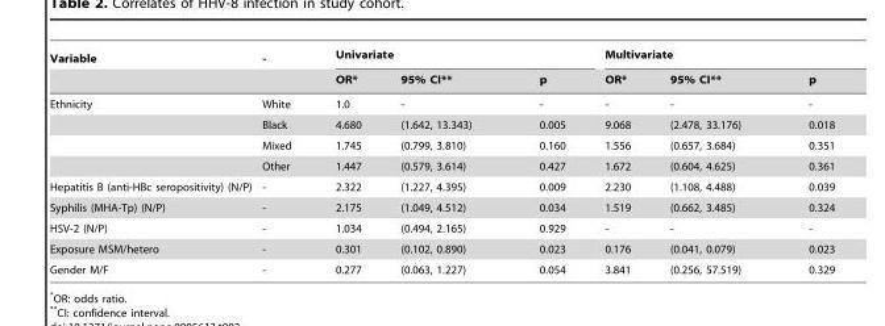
<table><thead><tr><td rowspan="2">Variable</td><td rowspan="2">-</td><td colspan="3">Univariate</td><td colspan="3">Multivariate</td></tr><tr><td>OR*</td><td>95% CI**</td><td>p</td><td>OR*</td><td>95% CI**</td><td>p</td></tr></thead><tbody><tr><td rowspan="4">Ethnicity</td><td>White</td><td>1.0</td><td>-</td><td>-</td><td>-</td><td>-</td><td>-</td></tr><tr><td>Black</td><td>4.680</td><td>(1.642, 13.343)</td><td>0.005</td><td>9.068</td><td>(2.478, 33.176)</td><td>0.018</td></tr><tr><td>Mixed</td><td>1.745</td><td>(0.799, 3.810)</td><td>0.160</td><td>1.556</td><td>(0.657, 3.684)</td><td>0.351</td></tr><tr><td>Other</td><td>1.447</td><td>(0.579, 3.614)</td><td>0.427</td><td>1.672</td><td>(0.604, 4.625)</td><td>0.361</td></tr><tr><td>Hepatitis B (anti-HBc seropositivity) (N/P)</td><td>-</td><td>2.322</td><td>(1.227, 4.395)</td><td>0.009</td><td>2.230</td><td>(1.108, 4.488)</td><td>0.039</td></tr><tr><td>Syphilis (MHA-Tp) (N/P)</td><td>-</td><td>2.175</td><td>(1.049, 4.512)</td><td>0.034</td><td>1.519</td><td>(0.662, 3.485)</td><td>0.324</td></tr><tr><td>HSV-2 (N/P)</td><td>-</td><td>1.034</td><td>(0.494, 2.165)</td><td>0.929</td><td>-</td><td>-</td><td>-</td></tr><tr><td>Exposure MSM/hetero</td><td>-</td><td>0.301</td><td>(0.102, 0.890)</td><td>0.023</td><td>0.176</td><td>(0.041, 0.079)</td><td>0.023</td></tr><tr><td>Gender M/F</td><td>-</td><td>0.277</td><td>(0.063, 1.227)</td><td>0.054</td><td>3.841</td><td>(0.256, 57.519)</td><td>0.329</td></tr></tbody></table>